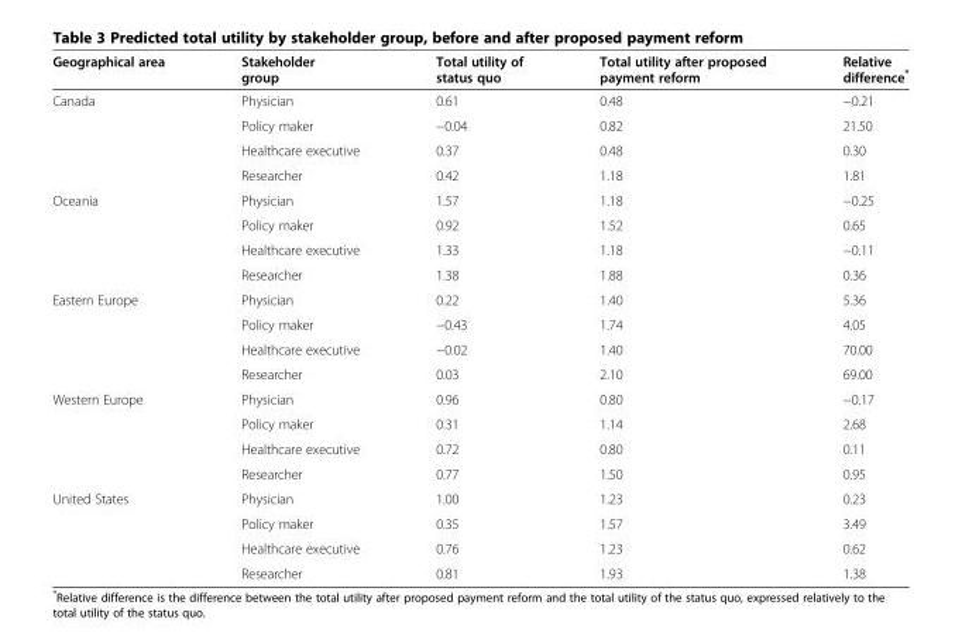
<table><thead><tr><td>Geographical area</td><td>Stakeholder group</td><td>Total utility of status quo</td><td>Total utility after proposed payment reform</td><td>Relative difference*</td></tr></thead><tbody><tr><td rowspan="4">Canada</td><td>Physician</td><td>0.61</td><td>0.48</td><td>−0.21</td></tr><tr><td>Policy maker</td><td>−0.04</td><td>0.82</td><td>21.50</td></tr><tr><td>Healthcare executive</td><td>0.37</td><td>0.48</td><td>0.30</td></tr><tr><td>Researcher</td><td>0.42</td><td>1.18</td><td>1.81</td></tr><tr><td rowspan="4">Oceania</td><td>Physician</td><td>1.57</td><td>1.18</td><td>−0.25</td></tr><tr><td>Policy maker</td><td>0.92</td><td>1.52</td><td>0.65</td></tr><tr><td>Healthcare executive</td><td>1.33</td><td>1.18</td><td>−0.11</td></tr><tr><td>Researcher</td><td>1.38</td><td>1.88</td><td>0.36</td></tr><tr><td rowspan="4">Eastern Europe</td><td>Physician</td><td>0.22</td><td>1.40</td><td>5.36</td></tr><tr><td>Policy maker</td><td>−0.43</td><td>1.74</td><td>4.05</td></tr><tr><td>Healthcare executive</td><td>−0.02</td><td>1.40</td><td>70.00</td></tr><tr><td>Researcher</td><td>0.03</td><td>2.10</td><td>69.00</td></tr><tr><td rowspan="4">Western Europe</td><td>Physician</td><td>0.96</td><td>0.80</td><td>−0.17</td></tr><tr><td>Policy maker</td><td>0.31</td><td>1.14</td><td>2.68</td></tr><tr><td>Healthcare executive</td><td>0.72</td><td>0.80</td><td>0.11</td></tr><tr><td>Researcher</td><td>0.77</td><td>1.50</td><td>0.95</td></tr><tr><td rowspan="4">United States</td><td>Physician</td><td>1.00</td><td>1.23</td><td>0.23</td></tr><tr><td>Policy maker</td><td>0.35</td><td>1.57</td><td>3.49</td></tr><tr><td>Healthcare executive</td><td>0.76</td><td>1.23</td><td>0.62</td></tr><tr><td>Researcher</td><td>0.81</td><td>1.93</td><td>1.38</td></tr></tbody></table>